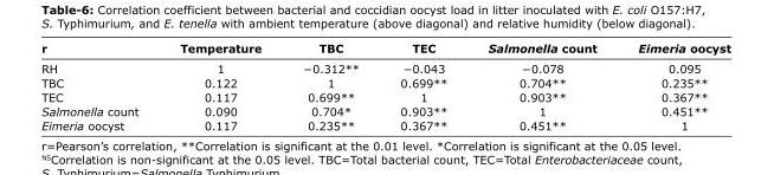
<table><thead><tr><td>r</td><td>Temperature</td><td>TBC</td><td>TEC</td><td>Salmonella count</td><td>Eimeria oocyst</td></tr></thead><tbody><tr><td>RH</td><td>1</td><td>−0.312**</td><td>−0.043</td><td>−0.078</td><td>0.095</td></tr><tr><td>TBC</td><td>0.122</td><td>1</td><td>0.699**</td><td>0.704**</td><td>0.235**</td></tr><tr><td>TEC</td><td>0.117</td><td>0.699**</td><td>1</td><td>0.903**</td><td>0.367**</td></tr><tr><td>Salmonella count</td><td>0.090</td><td>0.704*</td><td>0.903**</td><td>1</td><td>0.451**</td></tr><tr><td>Eimeria oocyst</td><td>0.117</td><td>0.235**</td><td>0.367**</td><td>0.451**</td><td>1</td></tr></tbody></table>